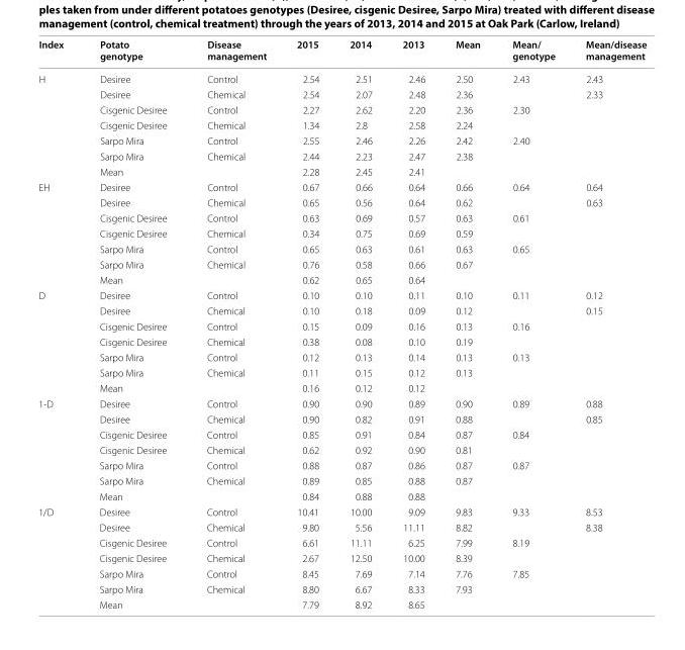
<table><thead><tr><td>Index</td><td>Potato genotype</td><td>Disease management</td><td>2015</td><td>2014</td><td>2013</td><td>Mean</td><td>Mean/ genotype</td><td>Mean/disease management</td></tr></thead><tbody><tr><td rowspan="7">H</td><td>Desiree</td><td>Control</td><td>2.54</td><td>2.51</td><td>2.46</td><td>2.50</td><td rowspan="2">2.43</td><td>2.43</td></tr><tr><td>Desiree</td><td>Chemical</td><td>2.54</td><td>2.07</td><td>2.48</td><td>2.36</td><td>2.33</td></tr><tr><td>Cisgenic Desiree</td><td>Control</td><td>2.27</td><td>2.62</td><td>2.20</td><td>2.36</td><td rowspan="2">2.30</td><td rowspan="5"></td></tr><tr><td>Cisgenic Desiree</td><td>Chemical</td><td>1.34</td><td>2.8</td><td>2.58</td><td>2.24</td></tr><tr><td>Sarpo Mira</td><td>Control</td><td>2.55</td><td>2.46</td><td>2.26</td><td>2.42</td><td rowspan="2">2.40</td></tr><tr><td>Sarpo Mira</td><td>Chemical</td><td>2.44</td><td>2.23</td><td>2.47</td><td>2.38</td></tr><tr><td colspan="2">Mean</td><td>2.28</td><td>2.45</td><td>2.41</td><td colspan="2"></td></tr><tr><td rowspan="7">EH</td><td>Desiree</td><td>Control</td><td>0.67</td><td>0.66</td><td>0.64</td><td>0.66</td><td rowspan="2">0.64</td><td>0.64</td></tr><tr><td>Desiree</td><td>Chemical</td><td>0.65</td><td>0.56</td><td>0.64</td><td>0.62</td><td>0.63</td></tr><tr><td>Cisgenic Desiree</td><td>Control</td><td>0.63</td><td>0.69</td><td>0.57</td><td>0.63</td><td rowspan="2">0.61</td><td rowspan="5"></td></tr><tr><td>Cisgenic Desiree</td><td>Chemical</td><td>0.34</td><td>0.75</td><td>0.69</td><td>0.59</td></tr><tr><td>Sarpo Mira</td><td>Control</td><td>0.65</td><td>0.63</td><td>0.61</td><td>0.63</td><td rowspan="2">0.65</td></tr><tr><td>Sarpo Mira</td><td>Chemical</td><td>0.76</td><td>0.58</td><td>0.66</td><td>0.67</td></tr><tr><td colspan="2">Mean</td><td>0.62</td><td>0.65</td><td>0.64</td><td colspan="2"></td></tr><tr><td rowspan="7">D</td><td>Desiree</td><td>Control</td><td>0.10</td><td>0.10</td><td>0.11</td><td>0.10</td><td rowspan="2">0.11</td><td>0.12</td></tr><tr><td>Desiree</td><td>Chemical</td><td>0.10</td><td>0.18</td><td>0.09</td><td>0.12</td><td>0.15</td></tr><tr><td>Cisgenic Desiree</td><td>Control</td><td>0.15</td><td>0.09</td><td>0.16</td><td>0.13</td><td rowspan="2">0.16</td><td rowspan="5"></td></tr><tr><td>Cisgenic Desiree</td><td>Chemical</td><td>0.38</td><td>0.08</td><td>0.10</td><td>0.19</td></tr><tr><td>Sarpo Mira</td><td>Control</td><td>0.12</td><td>0.13</td><td>0.14</td><td>0.13</td><td rowspan="2">0.13</td></tr><tr><td>Sarpo Mira</td><td>Chemical</td><td>0.11</td><td>0.15</td><td>0.12</td><td>0.13</td></tr><tr><td colspan="2">Mean</td><td>0.16</td><td>0.12</td><td>0.12</td><td colspan="2"></td></tr><tr><td rowspan="7">1-D</td><td>Desiree</td><td>Control</td><td>0.90</td><td>0.90</td><td>0.89</td><td>0.90</td><td rowspan="2">0.89</td><td>0.88</td></tr><tr><td>Desiree</td><td>Chemical</td><td>0.90</td><td>0.82</td><td>0.91</td><td>0.88</td><td>0.85</td></tr><tr><td>Cisgenic Desiree</td><td>Control</td><td>0.85</td><td>0.91</td><td>0.84</td><td>0.87</td><td rowspan="2">0.84</td><td rowspan="5"></td></tr><tr><td>Cisgenic Desiree</td><td>Chemical</td><td>0.62</td><td>0.92</td><td>0.90</td><td>0.81</td></tr><tr><td>Sarpo Mira</td><td>Control</td><td>0.88</td><td>0.87</td><td>0.86</td><td>0.87</td><td rowspan="2">0.87</td></tr><tr><td>Sarpo Mira</td><td>Chemical</td><td>0.89</td><td>0.85</td><td>0.88</td><td>0.87</td></tr><tr><td colspan="2">Mean</td><td>0.84</td><td>0.88</td><td>0.88</td><td colspan="2"></td></tr><tr><td rowspan="7">1/D</td><td>Desiree</td><td>Control</td><td>10.41</td><td>10.00</td><td>9.09</td><td>9.83</td><td rowspan="2">9.33</td><td>8.53</td></tr><tr><td>Desiree</td><td>Chemical</td><td>9.80</td><td>5.56</td><td>11.11</td><td>8.82</td><td>8.38</td></tr><tr><td>Cisgenic Desiree</td><td>Control</td><td>6.61</td><td>11.11</td><td>6.25</td><td>7.99</td><td rowspan="2">8.19</td><td rowspan="5"></td></tr><tr><td>Cisgenic Desiree</td><td>Chemical</td><td>2.67</td><td>12.50</td><td>10.00</td><td>8.39</td></tr><tr><td>Sarpo Mira</td><td>Control</td><td>8.45</td><td>7.69</td><td>7.14</td><td>7.76</td><td rowspan="2">7.85</td></tr><tr><td>Sarpo Mira</td><td>Chemical</td><td>8.80</td><td>6.67</td><td>8.33</td><td>7.93</td></tr><tr><td colspan="2">Mean</td><td>7.79</td><td>8.92</td><td>8.65</td><td colspan="2"></td></tr></tbody></table>